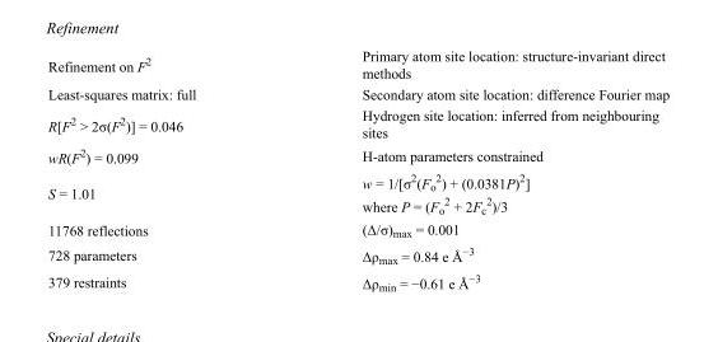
<table><tbody><tr><td>Refinement on F<sup>2</sup></td><td>Primary atom site location: structure-invariant direct methods</td></tr><tr><td>Least-squares matrix: full</td><td>Secondary atom site location: difference Fourier map</td></tr><tr><td>R[F<sup>2</sup> &gt; 2σ(F<sup>2</sup>)] = 0.046</td><td>Hydrogen site location: inferred from neighbouring sites</td></tr><tr><td>wR(F<sup>2</sup>) = 0.099</td><td>H-atom parameters constrained</td></tr><tr><td>S = 1.01</td><td>w = 1/[σ<sup>2</sup>(F<sub>o</sub> <sup>2</sup>) + (0.0381P)<sup>2</sup>] where P = (F<sub>o</sub> <sup>2</sup> + 2F<sub>c</sub> <sup>2</sup>)/3</td></tr><tr><td>11768 reflections</td><td>(Δ/σ)<sub>max</sub> = 0.001</td></tr><tr><td>728 parameters</td><td>Δρ<sub>max</sub> = 0.84 e Å<sup>−3</sup></td></tr><tr><td>379 restraints</td><td>Δρ<sub>min</sub> = −0.61 e Å<sup>−3</sup></td></tr></tbody></table>